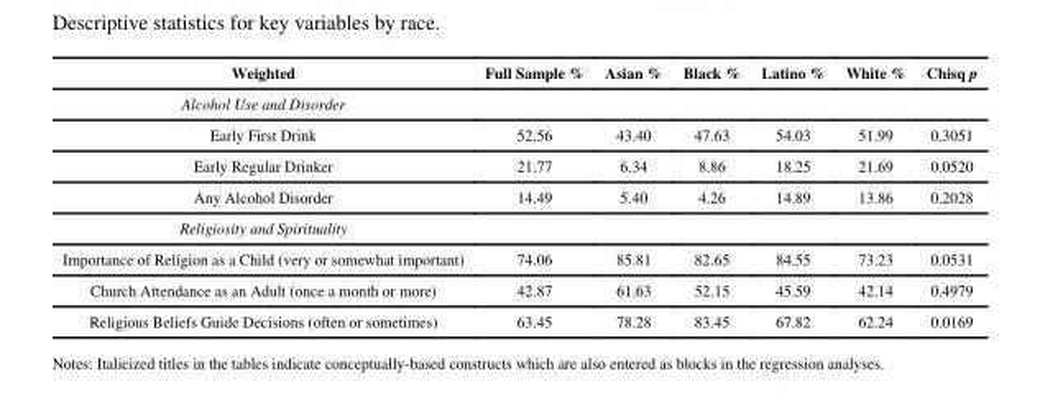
<table><thead><tr><td>Weighted</td><td>Full Sample %</td><td>Asian %</td><td>Black %</td><td>Latino %</td><td>White %</td><td>Chisq p</td></tr></thead><tbody><tr><td colspan="7">Alcohol Use and Disorder</td></tr><tr><td>Early First Drink</td><td>52.56</td><td>43.40</td><td>47.63</td><td>54.03</td><td>51.99</td><td>0.3051</td></tr><tr><td>Early Regular Drinker</td><td>21.77</td><td>6.34</td><td>8.86</td><td>18.25</td><td>21.69</td><td>0.0520</td></tr><tr><td>Any Alcohol Disorder</td><td>14.49</td><td>5.40</td><td>4.26</td><td>14.89</td><td>13.86</td><td>0.2028</td></tr><tr><td colspan="7">Religiosity and Spirituality</td></tr><tr><td>Importance of Religion as a Child (very or somewhat important)</td><td>74.06</td><td>85.81</td><td>82.65</td><td>84.55</td><td>73.23</td><td>0.0531</td></tr><tr><td>Church Attendance as an Adult (once a month or more)</td><td>42.87</td><td>61.63</td><td>52.15</td><td>45.59</td><td>42.14</td><td>0.4979</td></tr><tr><td>Religious Beliefs Guide Decisions (often or sometimes)</td><td>63.45</td><td>78.28</td><td>83.45</td><td>67.82</td><td>62.24</td><td>0.0169</td></tr></tbody></table>